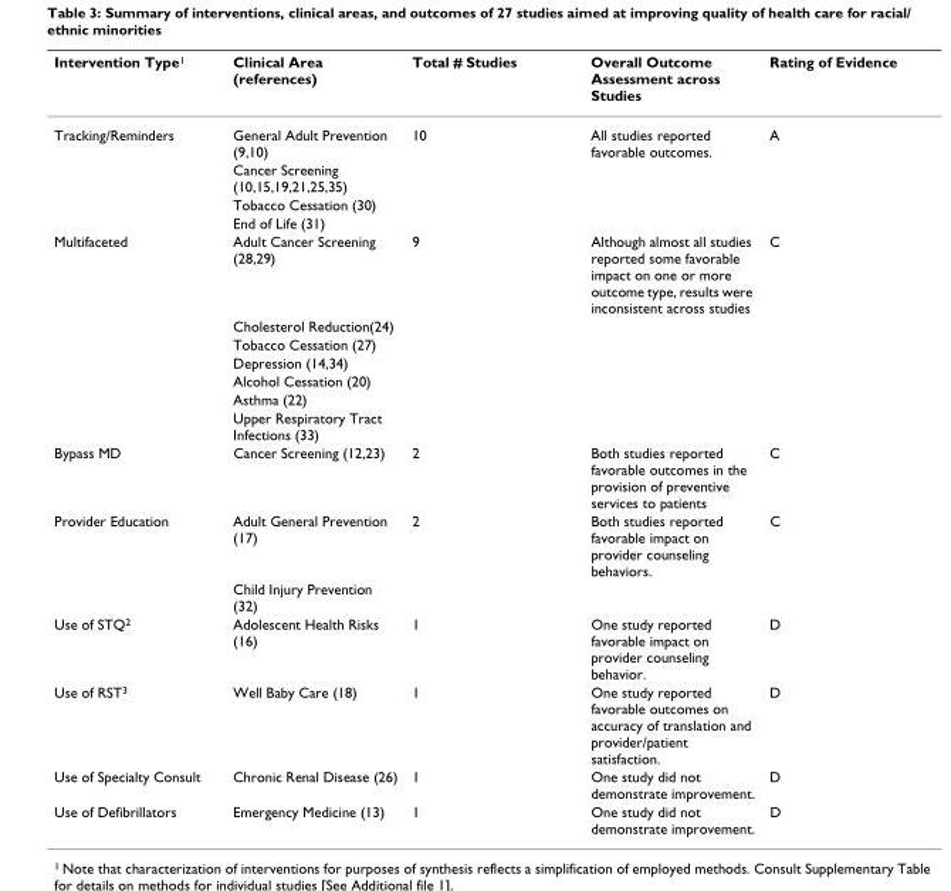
<table><thead><tr><td>Intervention Type1</td><td>Clinical Area (references)</td><td>Total # Studies</td><td>Overall Outcome Assessment across Studies</td><td>Rating of Evidence</td></tr></thead><tbody><tr><td rowspan="4">Tracking/Reminders</td><td>General Adult Prevention (9,10)</td><td>10</td><td>All studies reported favorable outcomes.</td><td>A</td></tr><tr><td>Cancer Screening (10,15,19,21,25,35)</td><td></td><td></td><td></td></tr><tr><td>Tobacco Cessation (30)</td><td></td><td></td><td></td></tr><tr><td>End of Life (31)</td><td></td><td></td><td></td></tr><tr><td rowspan="7">Multifaceted</td><td>Adult Cancer Screening (28,29)</td><td>9</td><td>Although almost all studies reported some favorable impact on one or more outcome type, results were inconsistent across studies</td><td>C</td></tr><tr><td>Cholesterol Reduction(24)</td><td></td><td></td><td></td></tr><tr><td>Tobacco Cessation (27)</td><td></td><td></td><td></td></tr><tr><td>Depression (14,34)</td><td></td><td></td><td></td></tr><tr><td>Alcohol Cessation (20)</td><td></td><td></td><td></td></tr><tr><td>Asthma (22)</td><td></td><td></td><td></td></tr><tr><td>Upper Respiratory Tract Infections (33)</td><td></td><td></td><td></td></tr><tr><td>Bypass MD</td><td>Cancer Screening (12,23)</td><td>2</td><td>Both studies reported favorable outcomes in the provision of preventive services to patients</td><td>C</td></tr><tr><td rowspan="2">Provider Education</td><td>Adult General Prevention (17)</td><td>2</td><td>Both studies reported favorable impact on provider counseling behaviors.</td><td>C</td></tr><tr><td>Child Injury Prevention (32)</td><td></td><td></td><td></td></tr><tr><td>Use of STQ2</td><td>Adolescent Health Risks (16)</td><td>1</td><td>One study reported favorable impact on provider counseling behavior.</td><td>D</td></tr><tr><td>Use of RST3</td><td>Well Baby Care (18)</td><td>1</td><td>One study reported favorable outcomes on accuracy of translation and provider/patient satisfaction.</td><td>D</td></tr><tr><td>Use of Specialty Consult</td><td>Chronic Renal Disease (26)</td><td>1</td><td>One study did not demonstrate improvement.</td><td>D</td></tr><tr><td>Use of Defibrillators</td><td>Emergency Medicine (13)</td><td>1</td><td>One study did not demonstrate improvement.</td><td>D</td></tr></tbody></table>